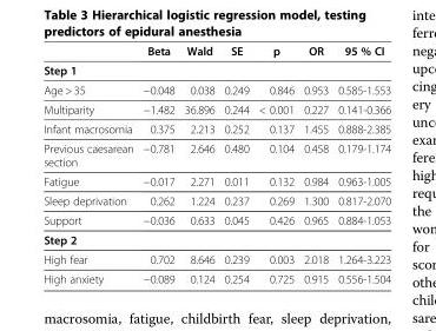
<table><thead><tr><td></td><td>Beta</td><td>Wald</td><td>SE</td><td>p</td><td>OR</td><td>95 % CI</td></tr></thead><tbody><tr><td colspan="7">Step 1</td></tr><tr><td>Age &gt; 35</td><td>−0.048</td><td>0.038</td><td>0.249</td><td>0.846</td><td>0.953</td><td>0.585-1.553</td></tr><tr><td>Multiparity</td><td>−1.482</td><td>36.896</td><td>0.244</td><td>&lt; 0.001</td><td>0.227</td><td>0.141-0.366</td></tr><tr><td>Infant macrosomia</td><td>0.375</td><td>2.213</td><td>0.252</td><td>0.137</td><td>1.455</td><td>0.888-2.385</td></tr><tr><td>Previous caesarean section</td><td>−0.781</td><td>2.646</td><td>0.480</td><td>0.104</td><td>0.458</td><td>0.179-1.174</td></tr><tr><td>Fatigue</td><td>−0.017</td><td>2.271</td><td>0.011</td><td>0.132</td><td>0.984</td><td>0.963-1.005</td></tr><tr><td>Sleep deprivation</td><td>0.262</td><td>1.224</td><td>0.237</td><td>0.269</td><td>1.300</td><td>0.817-2.070</td></tr><tr><td>Support</td><td>−0.036</td><td>0.633</td><td>0.045</td><td>0.426</td><td>0.965</td><td>0.884-1.053</td></tr><tr><td colspan="7">Step 2</td></tr><tr><td>High fear</td><td>0.702</td><td>8.646</td><td>0.239</td><td>0.003</td><td>2.018</td><td>1.264-3.223</td></tr><tr><td>High anxiety</td><td>−0.089</td><td>0.124</td><td>0.254</td><td>0.725</td><td>0.915</td><td>0.556-1.504</td></tr></tbody></table>